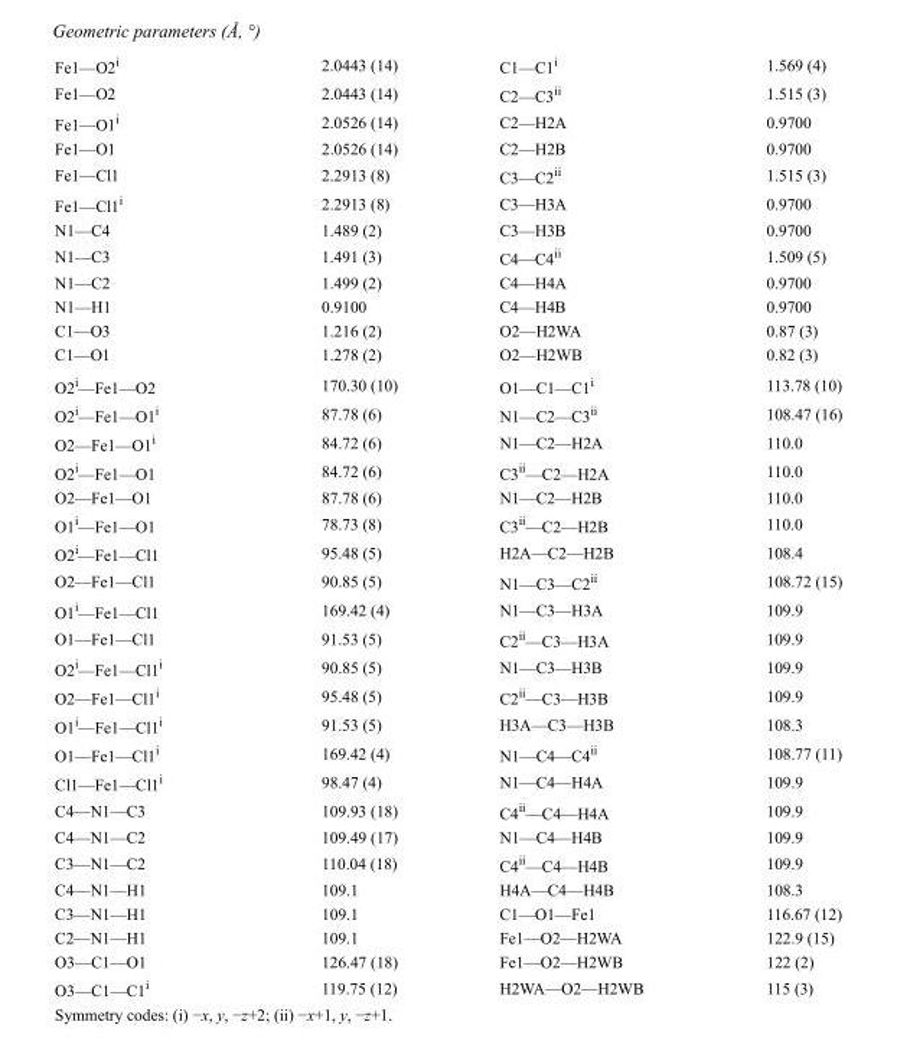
<table><tbody><tr><td>Fe1—O2<sup>i</sup></td><td>2.0443 (14)</td><td>C1—C1<sup>i</sup></td><td>1.569 (4)</td></tr><tr><td>Fe1—O2</td><td>2.0443 (14)</td><td>C2—C3<sup>ii</sup></td><td>1.515 (3)</td></tr><tr><td>Fe1—O1<sup>i</sup></td><td>2.0526 (14)</td><td>C2—H2A</td><td>0.9700</td></tr><tr><td>Fe1—O1</td><td>2.0526 (14)</td><td>C2—H2B</td><td>0.9700</td></tr><tr><td>Fe1—Cl1</td><td>2.2913 (8)</td><td>C3—C2<sup>ii</sup></td><td>1.515 (3)</td></tr><tr><td>Fe1—Cl1<sup>i</sup></td><td>2.2913 (8)</td><td>C3—H3A</td><td>0.9700</td></tr><tr><td>N1—C4</td><td>1.489 (2)</td><td>C3—H3B</td><td>0.9700</td></tr><tr><td>N1—C3</td><td>1.491 (3)</td><td>C4—C4<sup>ii</sup></td><td>1.509 (5)</td></tr><tr><td>N1—C2</td><td>1.499 (2)</td><td>C4—H4A</td><td>0.9700</td></tr><tr><td>N1—H1</td><td>0.9100</td><td>C4—H4B</td><td>0.9700</td></tr><tr><td>C1—O3</td><td>1.216 (2)</td><td>O2—H2WA</td><td>0.87 (3)</td></tr><tr><td>C1—O1</td><td>1.278 (2)</td><td>O2—H2WB</td><td>0.82 (3)</td></tr><tr><td>O2<sup>i</sup>—Fe1—O2</td><td>170.30 (10)</td><td>O1—C1—C1<sup>i</sup></td><td>113.78 (10)</td></tr><tr><td>O2<sup>i</sup>—Fe1—O1<sup>i</sup></td><td>87.78 (6)</td><td>N1—C2—C3<sup>ii</sup></td><td>108.47 (16)</td></tr><tr><td>O2—Fe1—O1<sup>i</sup></td><td>84.72 (6)</td><td>N1—C2—H2A</td><td>110.0</td></tr><tr><td>O2<sup>i</sup>—Fe1—O1</td><td>84.72 (6)</td><td>C3<sup>ii</sup>—C2—H2A</td><td>110.0</td></tr><tr><td>O2—Fe1—O1</td><td>87.78 (6)</td><td>N1—C2—H2B</td><td>110.0</td></tr><tr><td>O1<sup>i</sup>—Fe1—O1</td><td>78.73 (8)</td><td>C3<sup>ii</sup>—C2—H2B</td><td>110.0</td></tr><tr><td>O2<sup>i</sup>—Fe1—Cl1</td><td>95.48 (5)</td><td>H2A—C2—H2B</td><td>108.4</td></tr><tr><td>O2—Fe1—Cl1</td><td>90.85 (5)</td><td>N1—C3—C2<sup>ii</sup></td><td>108.72 (15)</td></tr><tr><td>O1<sup>i</sup>—Fe1—Cl1</td><td>169.42 (4)</td><td>N1—C3—H3A</td><td>109.9</td></tr><tr><td>O1—Fe1—Cl1</td><td>91.53 (5)</td><td>C2<sup>ii</sup>—C3—H3A</td><td>109.9</td></tr><tr><td>O2<sup>i</sup>—Fe1—Cl1<sup>i</sup></td><td>90.85 (5)</td><td>N1—C3—H3B</td><td>109.9</td></tr><tr><td>O2—Fe1—Cl1<sup>i</sup></td><td>95.48 (5)</td><td>C2<sup>ii</sup>—C3—H3B</td><td>109.9</td></tr><tr><td>O1<sup>i</sup>—Fe1—Cl1<sup>i</sup></td><td>91.53 (5)</td><td>H3A—C3—H3B</td><td>108.3</td></tr><tr><td>O1—Fe1—Cl1<sup>i</sup></td><td>169.42 (4)</td><td>N1—C4—C4<sup>ii</sup></td><td>108.77 (11)</td></tr><tr><td>Cl1—Fe1—Cl1<sup>i</sup></td><td>98.47 (4)</td><td>N1—C4—H4A</td><td>109.9</td></tr><tr><td>C4—N1—C3</td><td>109.93 (18)</td><td>C4<sup>ii</sup>—C4—H4A</td><td>109.9</td></tr><tr><td>C4—N1—C2</td><td>109.49 (17)</td><td>N1—C4—H4B</td><td>109.9</td></tr><tr><td>C3—N1—C2</td><td>110.04 (18)</td><td>C4<sup>ii</sup>—C4—H4B</td><td>109.9</td></tr><tr><td>C4—N1—H1</td><td>109.1</td><td>H4A—C4—H4B</td><td>108.3</td></tr><tr><td>C3—N1—H1</td><td>109.1</td><td>C1—O1—Fe1</td><td>116.67 (12)</td></tr><tr><td>C2—N1—H1</td><td>109.1</td><td>Fe1—O2—H2WA</td><td>122.9 (15)</td></tr><tr><td>O3—C1—O1</td><td>126.47 (18)</td><td>Fe1—O2—H2WB</td><td>122 (2)</td></tr><tr><td>O3—C1—C1<sup>i</sup></td><td>119.75 (12)</td><td>H2WA—O2—H2WB</td><td>115 (3)</td></tr></tbody></table>